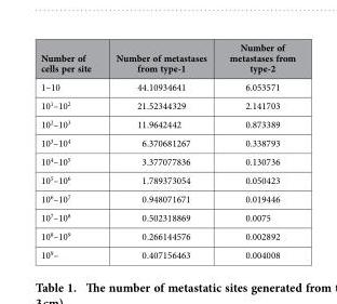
<table><thead><tr><td>Number of cells per site</td><td>Number of metastases from type-1</td><td>Number of metastases from type-2</td></tr></thead><tbody><tr><td>1–10</td><td>44.10934641</td><td>6.053571</td></tr><tr><td>10<sup>1</sup>–10<sup>2</sup></td><td>21.52344329</td><td>2.141703</td></tr><tr><td>10<sup>2</sup>–10<sup>3</sup></td><td>11.9642442</td><td>0.873389</td></tr><tr><td>10<sup>3</sup>–10<sup>4</sup></td><td>6.370681267</td><td>0.338793</td></tr><tr><td>10<sup>4</sup>–10<sup>5</sup></td><td>3.377077836</td><td>0.130736</td></tr><tr><td>10<sup>5</sup>–10<sup>6</sup></td><td>1.789373054</td><td>0.050423</td></tr><tr><td>10<sup>6</sup>–10<sup>7</sup></td><td>0.948071671</td><td>0.019446</td></tr><tr><td>10<sup>7</sup>–10<sup>8</sup></td><td>0.502318869</td><td>0.0075</td></tr><tr><td>10<sup>8</sup>–10<sup>9</sup></td><td>0.266144576</td><td>0.002892</td></tr><tr><td>10<sup>9</sup>–</td><td>0.407156463</td><td>0.004008</td></tr></tbody></table>